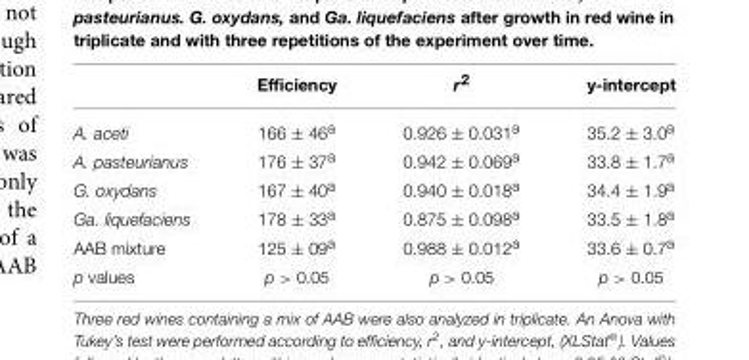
<table><thead><tr><td></td><td>Efficiency</td><td>r<sup>2</sup></td><td>y-intercept</td></tr></thead><tbody><tr><td>A. aceti</td><td>166 ± 46<sup>a</sup></td><td>0.926 ± 0.031<sup>a</sup></td><td>35.2 ± 3.0<sup>a</sup></td></tr><tr><td>A. pasteurianus</td><td>176 ± 37<sup>a</sup></td><td>0.942 ± 0.069<sup>a</sup></td><td>33.8 ± 1.7<sup>a</sup></td></tr><tr><td>G. oxydans</td><td>167 ± 40<sup>a</sup></td><td>0.940 ± 0.018<sup>a</sup></td><td>34.4 ± 1.9<sup>a</sup></td></tr><tr><td>Ga. liquefaciens</td><td>178 ± 33<sup>a</sup></td><td>0.875 ± 0.098<sup>a</sup></td><td>33.5 ± 1.8<sup>a</sup></td></tr><tr><td>AAB mixture</td><td>125 ± 09<sup>a</sup></td><td>0.988 ± 0.012<sup>a</sup></td><td>33.6 ± 0.7<sup>a</sup></td></tr><tr><td>p values</td><td>p &gt; 0.05</td><td>p &gt; 0.05</td><td>p &gt; 0.05</td></tr></tbody></table>